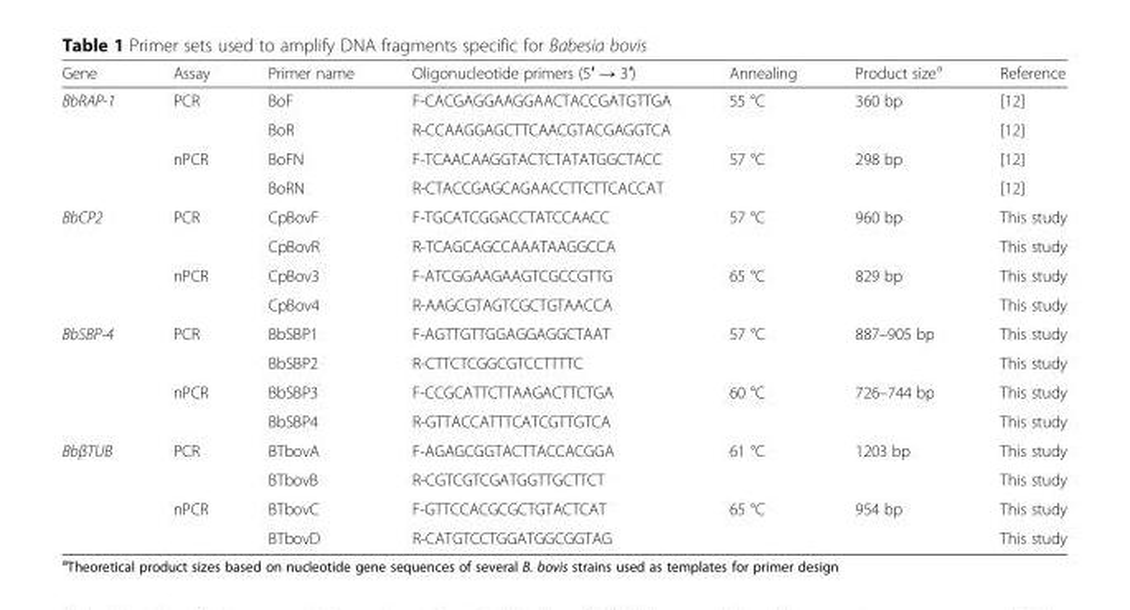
<table><thead><tr><td>Gene</td><td>Assay</td><td>Primer name</td><td>Oligonucleotide primers (5′ → 3′)</td><td>Annealing</td><td>Product size<sup>a</sup></td><td>Reference</td></tr></thead><tbody><tr><td rowspan="4">BbRAP-1</td><td rowspan="2">PCR</td><td>BoF</td><td>F-CACGAGGAAGGAACTACCGATGTTGA</td><td rowspan="2">55 °C</td><td rowspan="2">360 bp</td><td>[12]</td></tr><tr><td>BoR</td><td>R-CCAAGGAGCTTCAACGTACGAGGTCA</td><td>[12]</td></tr><tr><td rowspan="2">nPCR</td><td>BoFN</td><td>F-TCAACAAGGTACTCTATATGGCTACC</td><td rowspan="2">57 °C</td><td rowspan="2">298 bp</td><td>[12]</td></tr><tr><td>BoRN</td><td>R-CTACCGAGCAGAACCTTCTTCACCAT</td><td>[12]</td></tr><tr><td rowspan="4">BbCP2</td><td rowspan="2">PCR</td><td>CpBovF</td><td>F-TGCATCGGACCTATCCAACC</td><td rowspan="2">57 °C</td><td rowspan="2">960 bp</td><td>This study</td></tr><tr><td>CpBovR</td><td>R-TCAGCAGCCAAATAAGGCCA</td><td>This study</td></tr><tr><td rowspan="2">nPCR</td><td>CpBov3</td><td>F-ATCGGAAGAAGTCGCCGTTG</td><td rowspan="2">65 °C</td><td rowspan="2">829 bp</td><td>This study</td></tr><tr><td>CpBov4</td><td>R-AAGCGTAGTCGCTGTAACCA</td><td>This study</td></tr><tr><td rowspan="4">BbSBP-4</td><td rowspan="2">PCR</td><td>BbSBP1</td><td>F-AGTTGTTGGAGGAGGCTAAT</td><td rowspan="2">57 °C</td><td rowspan="2">887–905 bp</td><td>This study</td></tr><tr><td>BbSBP2</td><td>R-CTTCTCGGCGTCCTTTTC</td><td>This study</td></tr><tr><td rowspan="2">nPCR</td><td>BbSBP3</td><td>F-CCGCATTCTTAAGACTTCTGA</td><td rowspan="2">60 °C</td><td rowspan="2">726–744 bp</td><td>This study</td></tr><tr><td>BbSBP4</td><td>R-GTTACCATTTCATCGTTGTCA</td><td>This study</td></tr><tr><td rowspan="4">BbβTUB</td><td rowspan="2">PCR</td><td>BTbovA</td><td>F-AGAGCGGTACTTACCACGGA</td><td rowspan="2">61 °C</td><td rowspan="2">1203 bp</td><td>This study</td></tr><tr><td>BTbovB</td><td>R-CGTCGTCGATGGTTGCTTCT</td><td>This study</td></tr><tr><td rowspan="2">nPCR</td><td>BTbovC</td><td>F-GTTCCACGCGCTGTACTCAT</td><td rowspan="2">65 °C</td><td rowspan="2">954 bp</td><td>This study</td></tr><tr><td>BTbovD</td><td>R-CATGTCCTGGATGGCGGTAG</td><td>This study</td></tr></tbody></table>